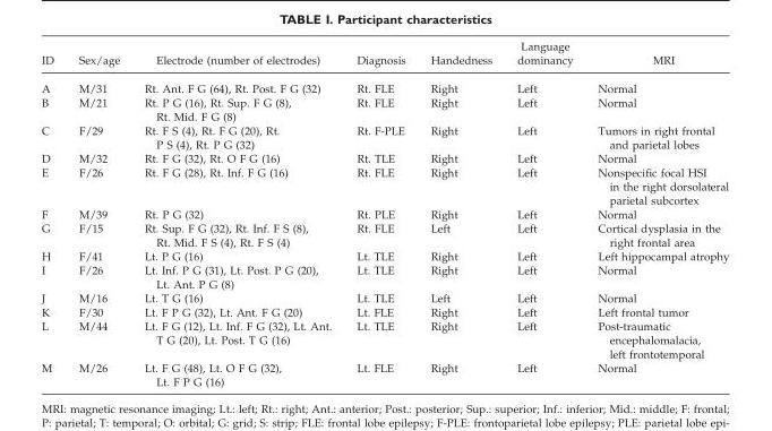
<table><thead><tr><td>ID</td><td>Sex/age</td><td>Electrode (number of electrodes)</td><td>Diagnosis</td><td>Handedness</td><td>Language dominancy</td><td>MRI</td></tr></thead><tbody><tr><td>A</td><td>M/31</td><td>Rt. Ant. F G (64), Rt. Post. F G (32)</td><td>Rt. FLE</td><td>Right</td><td>Left</td><td>Normal</td></tr><tr><td>B</td><td>M/21</td><td>Rt. P G (16), Rt. Sup. F G (8), Rt. Mid. F G (8)</td><td>Rt. FLE</td><td>Right</td><td>Left</td><td>Normal</td></tr><tr><td>C</td><td>F/29</td><td>Rt. F S (4), Rt. F G (20), Rt. P S (4), Rt. P G (32)</td><td>Rt. F-PLE</td><td>Right</td><td>Left</td><td>Tumors in right frontal and parietal lobes</td></tr><tr><td>D</td><td>M/32</td><td>Rt. F G (32), Rt. O F G (16)</td><td>Rt. TLE</td><td>Right</td><td>Left</td><td>Normal</td></tr><tr><td>E</td><td>F/26</td><td>Rt. F G (28), Rt. Inf. F G (16)</td><td>Rt. FLE</td><td>Right</td><td>Left</td><td>Nonspecific focal HSI in the right dorsolateral parietal subcortex</td></tr><tr><td>F</td><td>M/39</td><td>Rt. P G (32)</td><td>Rt. PLE</td><td>Right</td><td>Left</td><td>Normal</td></tr><tr><td>G</td><td>F/15</td><td>Rt. Sup. F G (32), Rt. Inf. F S (8), Rt. Mid. F S (4), Rt. F S (4)</td><td>Rt. FLE</td><td>Left</td><td>Left</td><td>Cortical dysplasia in the right frontal area</td></tr><tr><td>H</td><td>F/41</td><td>Lt. P G (16)</td><td>Lt. TLE</td><td>Right</td><td>Left</td><td>Left hippocampal atrophy</td></tr><tr><td>I</td><td>F/26</td><td>Lt. Inf. P G (31), Lt. Post. P G (20), Lt. Ant. P G (8)</td><td>Lt. TLE</td><td>Right</td><td>Left</td><td>Normal</td></tr><tr><td>J</td><td>M/16</td><td>Lt. T G (16)</td><td>Lt. TLE</td><td>Left</td><td>Left</td><td>Normal</td></tr><tr><td>K</td><td>F/30</td><td>Lt. F P G (32), Lt. Ant. F G (20)</td><td>Lt. FLE</td><td>Right</td><td>Left</td><td>Left frontal tumor</td></tr><tr><td>L</td><td>M/44</td><td>Lt. F G (12), Lt. Inf. F G (32), Lt. Ant. T G (20), Lt. Post. T G (16)</td><td>Lt. TLE</td><td>Right</td><td>Left</td><td>Post-traumatic encephalomalacia, left frontotemporal</td></tr><tr><td>M</td><td>M/26</td><td>Lt. F G (48), Lt. O F G (32), Lt. F P G (16)</td><td>Lt. FLE</td><td>Right</td><td>Left</td><td>Normal</td></tr></tbody></table>